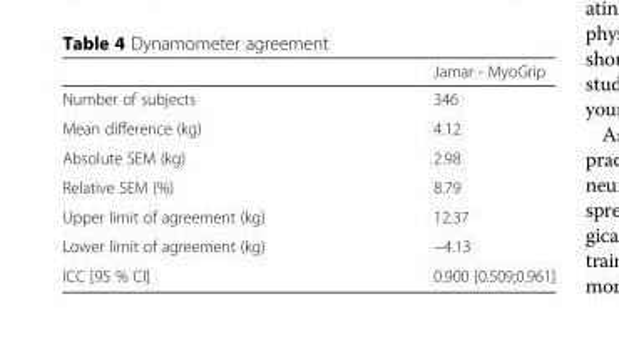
<table><thead><tr><td></td><td>Jamar - MyoGrip</td></tr></thead><tbody><tr><td>Number of subjects</td><td>346</td></tr><tr><td>Mean difference (kg)</td><td>4.12</td></tr><tr><td>Absolute SEM (kg)</td><td>2.98</td></tr><tr><td>Relative SEM (%)</td><td>8.79</td></tr><tr><td>Upper limit of agreement (kg)</td><td>12.37</td></tr><tr><td>Lower limit of agreement (kg)</td><td>−4.13</td></tr><tr><td>ICC [95 % CI]</td><td>0.900 [0.509;0.961]</td></tr></tbody></table>